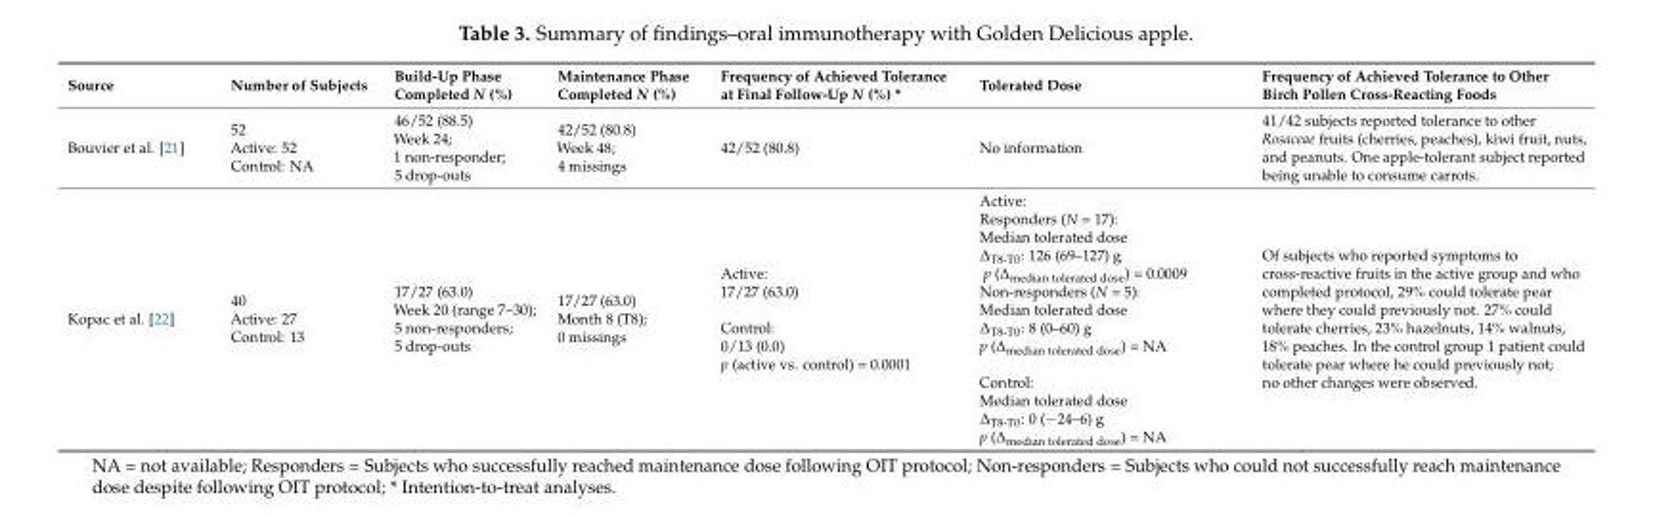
<table><thead><tr><td>Source</td><td>Number of Subjects</td><td>Build-Up Phase Completed N (%)</td><td>Maintenance Phase Completed N (%)</td><td>Frequency of Achieved Tolerance at Final Follow-Up N (%) *</td><td>Tolerated Dose</td><td>Frequency of Achieved Tolerance to Other Birch Pollen Cross-Reacting Foods</td></tr></thead><tbody><tr><td>Bouvier et al. [21]</td><td>52 Active: 52 Control: NA</td><td>46/52 (88.5) Week 24; 1 non-responder; 5 drop-outs</td><td>42/52 (80.8) Week 48; 4 missings</td><td>42/52 (80.8)</td><td>No information</td><td>41/42 subjects reported tolerance to other Rosaceae fruits (cherries, peaches), kiwi fruit, nuts, and peanuts. One apple-tolerant subject reported being unable to consume carrots.</td></tr><tr><td>Kopac et al. [22]</td><td>40 Active: 27 Control: 13</td><td>17/27 (63.0) Week 20 (range 7–30); 5 non-responders; 5 drop-outs</td><td>17/27 (63.0) Month 8 (T8); 0 missings</td><td>Active: 17/27 (63.0) Control: 0/13 (0.0) p (active vs. control) = 0.0001</td><td>Active: Responders (N = 17): Median tolerated dose ∆T8-T0: 126 (69–127) g p (∆median tolerated dose) = 0.0009 Non-responders (N = 5): Median tolerated dose ∆T8-T0: 8 (0–60) g p (∆median tolerated dose) = NA Control: Median tolerated dose ∆T8-T0: 0 (−24–6) g p (∆median tolerated dose) = NA</td><td>Of subjects who reported symptoms to cross-reactive fruits in the active group and who completed protocol, 29% could tolerate pear where they could previously not. 27% could tolerate cherries, 23% hazelnuts, 14% walnuts, 18% peaches. In the control group 1 patient could tolerate pear where he could previously not; no other changes were observed.</td></tr></tbody></table>